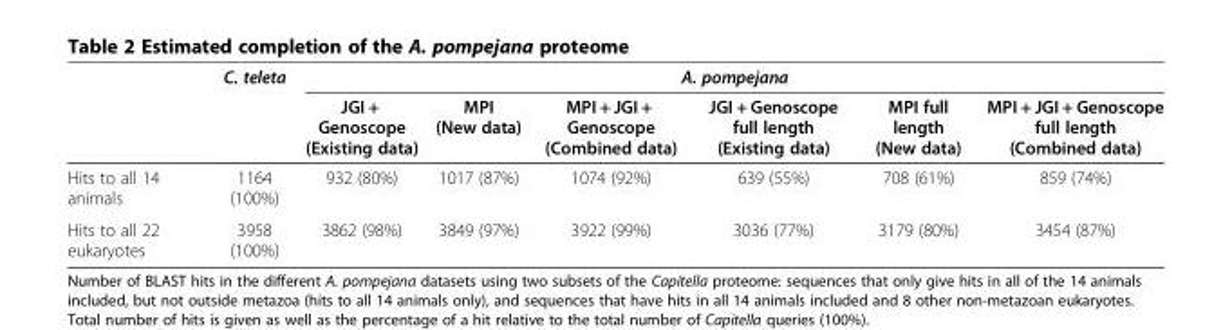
<table><thead><tr><td rowspan="2"></td><td rowspan="2">C. teleta</td><td colspan="6">A. pompejana</td></tr><tr><td>JGI + Genoscope (Existing data)</td><td>MPI (New data)</td><td>MPI + JGI + Genoscope (Combined data)</td><td>JGI + Genoscope full length (Existing data)</td><td>MPI full length (New data)</td><td>MPI + JGI + Genoscope full length (Combined data)</td></tr></thead><tbody><tr><td>Hits to all 14 animals</td><td>1164 (100%)</td><td>932 (80%)</td><td>1017 (87%)</td><td>1074 (92%)</td><td>639 (55%)</td><td>708 (61%)</td><td>859 (74%)</td></tr><tr><td>Hits to all 22 eukaryotes</td><td>3958 (100%)</td><td>3862 (98%)</td><td>3849 (97%)</td><td>3922 (99%)</td><td>3036 (77%)</td><td>3179 (80%)</td><td>3454 (87%)</td></tr></tbody></table>